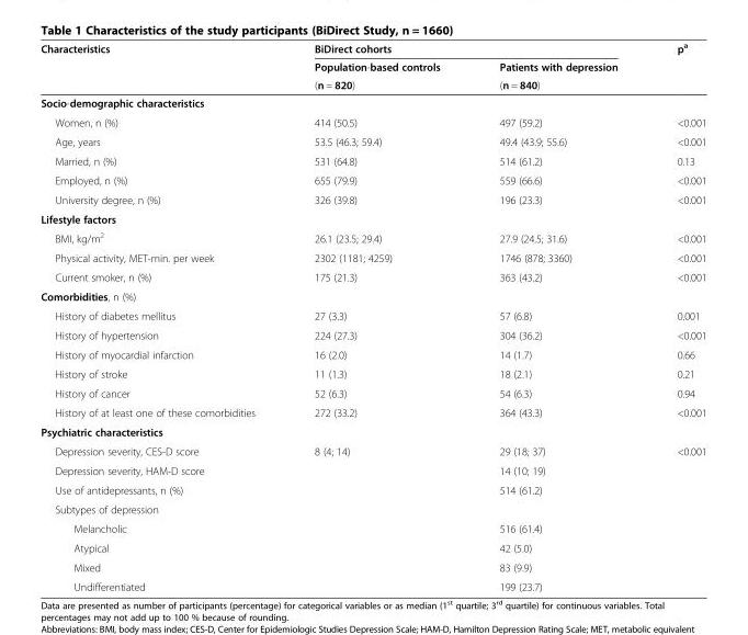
<table><thead><tr><td rowspan="3">Characteristics</td><td colspan="2">BiDirect cohorts</td><td rowspan="3">p<sup>a</sup></td></tr><tr><td rowspan="2">Population-based controls (n = 820)</td><td rowspan="2">Patients with depression (n = 840)</td></tr><tr></tr></thead><tbody><tr><td colspan="4">Socio-demographic characteristics</td></tr><tr><td>Women, n (%)</td><td>414 (50.5)</td><td>497 (59.2)</td><td>&lt;0.001</td></tr><tr><td>Age, years</td><td>53.5 (46.3; 59.4)</td><td>49.4 (43.9; 55.6)</td><td>&lt;0.001</td></tr><tr><td>Married, n (%)</td><td>531 (64.8)</td><td>514 (61.2)</td><td>0.13</td></tr><tr><td>Employed, n (%)</td><td>655 (79.9)</td><td>559 (66.6)</td><td>&lt;0.001</td></tr><tr><td>University degree, n (%)</td><td>326 (39.8)</td><td>196 (23.3)</td><td>&lt;0.001</td></tr><tr><td colspan="4">Lifestyle factors</td></tr><tr><td>BMI, kg/m<sup>2</sup></td><td>26.1 (23.5; 29.4)</td><td>27.9 (24.5; 31.6)</td><td>&lt;0.001</td></tr><tr><td>Physical activity, MET-min. per week</td><td>2302 (1181; 4259)</td><td>1746 (878; 3360)</td><td>&lt;0.001</td></tr><tr><td>Current smoker, n (%)</td><td>175 (21.3)</td><td>363 (43.2)</td><td>&lt;0.001</td></tr><tr><td colspan="4">Comorbidities, n (%)</td></tr><tr><td>History of diabetes mellitus</td><td>27 (3.3)</td><td>57 (6.8)</td><td>0.001</td></tr><tr><td>History of hypertension</td><td>224 (27.3)</td><td>304 (36.2)</td><td>&lt;0.001</td></tr><tr><td>History of myocardial infarction</td><td>16 (2.0)</td><td>14 (1.7)</td><td>0.66</td></tr><tr><td>History of stroke</td><td>11 (1.3)</td><td>18 (2.1)</td><td>0.21</td></tr><tr><td>History of cancer</td><td>52 (6.3)</td><td>54 (6.3)</td><td>0.94</td></tr><tr><td>History of at least one of these comorbidities</td><td>272 (33.2)</td><td>364 (43.3)</td><td>&lt;0.001</td></tr><tr><td colspan="4">Psychiatric characteristics</td></tr><tr><td>Depression severity, CES-D score</td><td>8 (4; 14)</td><td>29 (18; 37)</td><td>&lt;0.001</td></tr><tr><td>Depression severity, HAM-D score</td><td></td><td>14 (10; 19)</td><td></td></tr><tr><td>Use of antidepressants, n (%)</td><td></td><td>514 (61.2)</td><td></td></tr><tr><td colspan="4">Subtypes of depression</td></tr><tr><td>Melancholic</td><td></td><td>516 (61.4)</td><td></td></tr><tr><td>Atypical</td><td></td><td>42 (5.0)</td><td></td></tr><tr><td>Mixed</td><td></td><td>83 (9.9)</td><td></td></tr><tr><td>Undifferentiated</td><td></td><td>199 (23.7)</td><td></td></tr></tbody></table>